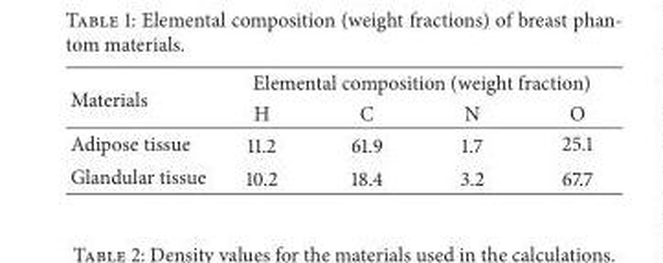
<table><thead><tr><td rowspan="2">Materials</td><td colspan="4">Elemental composition (weight fraction)</td></tr><tr><td>H</td><td>C</td><td>N</td><td>O</td></tr></thead><tbody><tr><td>Adipose tissue</td><td>11.2</td><td>61.9</td><td>1.7</td><td>25.1</td></tr><tr><td>Glandular tissue</td><td>10.2</td><td>18.4</td><td>3.2</td><td>67.7</td></tr></tbody></table>